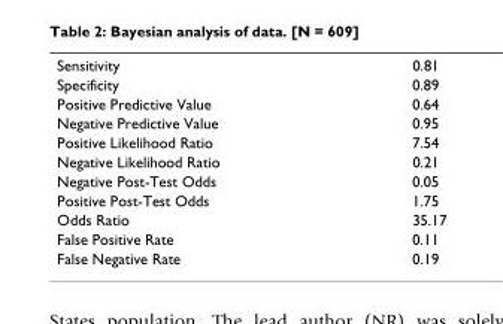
<table><tbody><tr><td>Sensitivity</td><td>0.81</td></tr><tr><td>Specificity</td><td>0.89</td></tr><tr><td>Positive Predictive Value</td><td>0.64</td></tr><tr><td>Negative Predictive Value</td><td>0.95</td></tr><tr><td>Positive Likelihood Ratio</td><td>7.54</td></tr><tr><td>Negative Likelihood Ratio</td><td>0.21</td></tr><tr><td>Negative Post-Test Odds</td><td>0.05</td></tr><tr><td>Positive Post-Test Odds</td><td>1.75</td></tr><tr><td>Odds Ratio</td><td>35.17</td></tr><tr><td>False Positive Rate</td><td>0.11</td></tr><tr><td>False Negative Rate</td><td>0.19</td></tr></tbody></table>